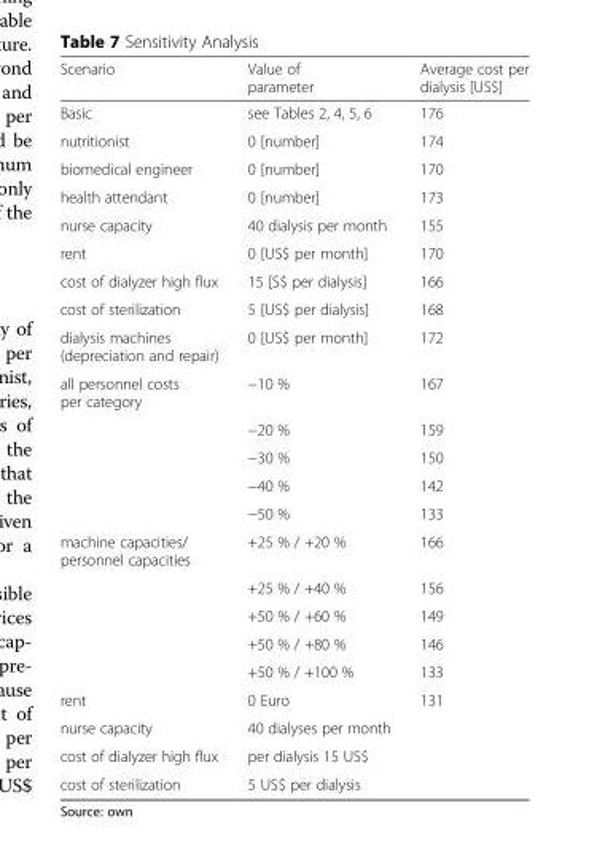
<table><thead><tr><td>Scenario</td><td>Value of parameter</td><td>Average cost per dialysis [US$]</td></tr></thead><tbody><tr><td>Basic</td><td>see Tables 2, 4, 5, 6</td><td>176</td></tr><tr><td>nutritionist</td><td>0 [number]</td><td>174</td></tr><tr><td>biomedical engineer</td><td>0 [number]</td><td>170</td></tr><tr><td>health attendant</td><td>0 [number]</td><td>173</td></tr><tr><td>nurse capacity</td><td>40 dialysis per month</td><td>155</td></tr><tr><td>rent</td><td>0 [US$ per month]</td><td>170</td></tr><tr><td>cost of dialyzer high flux</td><td>15 [S$ per dialysis]</td><td>166</td></tr><tr><td>cost of sterilization</td><td>5 [US$ per dialysis]</td><td>168</td></tr><tr><td>dialysis machines (depreciation and repair)</td><td>0 [US$ per month]</td><td>172</td></tr><tr><td rowspan="5">all personnel costs per category</td><td>−10 %</td><td>167</td></tr><tr><td>−20 %</td><td>159</td></tr><tr><td>−30 %</td><td>150</td></tr><tr><td>−40 %</td><td>142</td></tr><tr><td>−50 %</td><td>133</td></tr><tr><td rowspan="5">machine capacities/ personnel capacities</td><td>+25 % / +20 %</td><td>166</td></tr><tr><td>+25 % / +40 %</td><td>156</td></tr><tr><td>+50 % / +60 %</td><td>149</td></tr><tr><td>+50 % / +80 %</td><td>146</td></tr><tr><td>+50 % / +100 %</td><td>133</td></tr><tr><td>rent</td><td>0 Euro</td><td rowspan="4">131</td></tr><tr><td>nurse capacity</td><td>40 dialyses per month</td></tr><tr><td>cost of dialyzer high flux</td><td>per dialysis 15 US$</td></tr><tr><td>cost of sterilization</td><td>5 US$ per dialysis</td></tr></tbody></table>